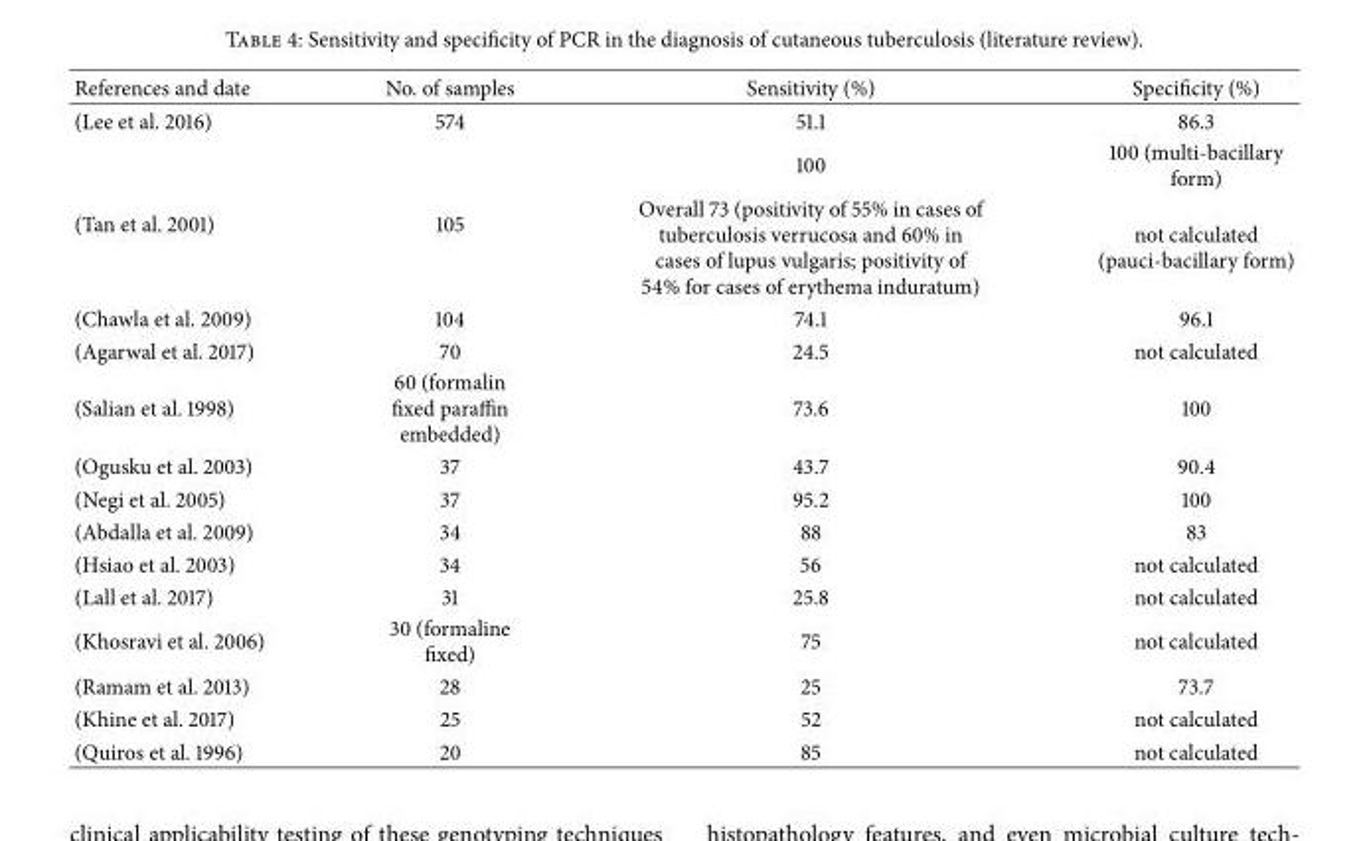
<table><thead><tr><td>References and date</td><td>No. of samples</td><td>Sensitivity (%)</td><td>Specificity (%)</td></tr></thead><tbody><tr><td>(Lee et al. 2016)</td><td>574</td><td>51.1</td><td>86.3</td></tr><tr><td rowspan="2">(Tan et al. 2001)</td><td rowspan="2">105</td><td>100</td><td>100 (multi-bacillary form)</td></tr><tr><td>Overall 73 (positivity of 55% in cases of tuberculosis verrucosa and 60% in cases of lupus vulgaris; positivity of 54% for cases of erythema induratum)</td><td>not calculated (pauci-bacillary form)</td></tr><tr><td>(Chawla et al. 2009)</td><td>104</td><td>74.1</td><td>96.1</td></tr><tr><td>(Agarwal et al. 2017)</td><td>70</td><td>24.5</td><td>not calculated</td></tr><tr><td>(Salian et al. 1998)</td><td>60 (formalin fixed paraffin embedded)</td><td>73.6</td><td>100</td></tr><tr><td>(Ogusku et al. 2003)</td><td>37</td><td>43.7</td><td>90.4</td></tr><tr><td>(Negi et al. 2005)</td><td>37</td><td>95.2</td><td>100</td></tr><tr><td>(Abdalla et al. 2009)</td><td>34</td><td>88</td><td>83</td></tr><tr><td>(Hsiao et al. 2003)</td><td>34</td><td>56</td><td>not calculated</td></tr><tr><td>(Lall et al. 2017)</td><td>31</td><td>25.8</td><td>not calculated</td></tr><tr><td>(Khosravi et al. 2006)</td><td>30 (formaline fixed)</td><td>75</td><td>not calculated</td></tr><tr><td>(Ramam et al. 2013)</td><td>28</td><td>25</td><td>73.7</td></tr><tr><td>(Khine et al. 2017)</td><td>25</td><td>52</td><td>not calculated</td></tr><tr><td>(Quiros et al. 1996)</td><td>20</td><td>85</td><td>not calculated</td></tr></tbody></table>